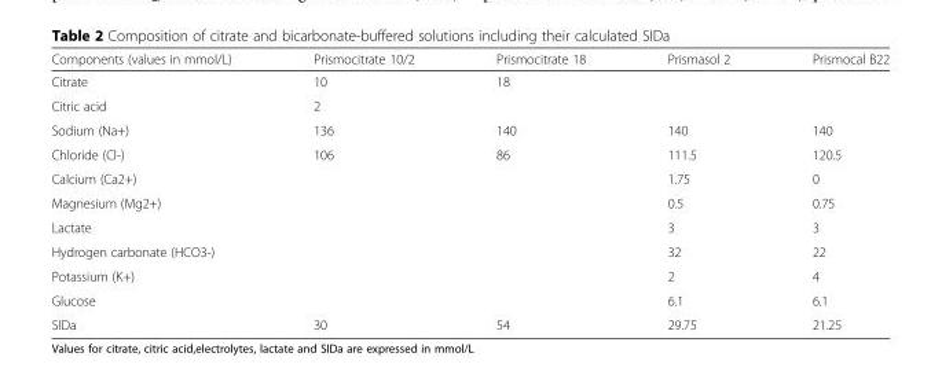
<table><thead><tr><td>Components (values in mmol/L)</td><td>Prismocitrate 10/2</td><td>Prismocitrate 18</td><td>Prismasol 2</td><td>Prismocal B22</td></tr></thead><tbody><tr><td>Citrate</td><td>10</td><td>18</td><td></td><td></td></tr><tr><td>Citric acid</td><td>2</td><td></td><td></td><td></td></tr><tr><td>Sodium (Na+)</td><td>136</td><td>140</td><td>140</td><td>140</td></tr><tr><td>Chloride (Cl-)</td><td>106</td><td>86</td><td>111.5</td><td>120.5</td></tr><tr><td>Calcium (Ca2+)</td><td></td><td></td><td>1.75</td><td>0</td></tr><tr><td>Magnesium (Mg2+)</td><td></td><td></td><td>0.5</td><td>0.75</td></tr><tr><td>Lactate</td><td></td><td></td><td>3</td><td>3</td></tr><tr><td>Hydrogen carbonate (HCO3-)</td><td></td><td></td><td>32</td><td>22</td></tr><tr><td>Potassium (K+)</td><td></td><td></td><td>2</td><td>4</td></tr><tr><td>Glucose</td><td></td><td></td><td>6.1</td><td>6.1</td></tr><tr><td>SIDa</td><td>30</td><td>54</td><td>29.75</td><td>21.25</td></tr></tbody></table>